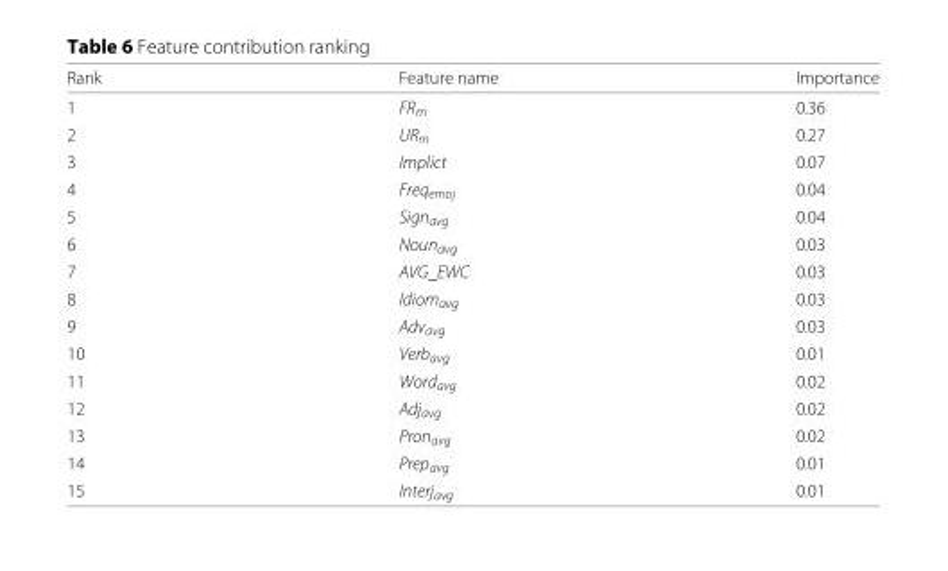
<table><thead><tr><td>Rank</td><td>Feature name</td><td>Importance</td></tr></thead><tbody><tr><td>1</td><td>FR<sub>m</sub></td><td>0.36</td></tr><tr><td>2</td><td>UR<sub>m</sub></td><td>0.27</td></tr><tr><td>3</td><td>Implict</td><td>0.07</td></tr><tr><td>4</td><td>Freq<sub>emoj</sub></td><td>0.04</td></tr><tr><td>5</td><td>Sign<sub>avg</sub></td><td>0.04</td></tr><tr><td>6</td><td>Noun<sub>avg</sub></td><td>0.03</td></tr><tr><td>7</td><td>AVG_EWC</td><td>0.03</td></tr><tr><td>8</td><td>Idiom<sub>avg</sub></td><td>0.03</td></tr><tr><td>9</td><td>Adv<sub>avg</sub></td><td>0.03</td></tr><tr><td>10</td><td>Verb<sub>avg</sub></td><td>0.01</td></tr><tr><td>11</td><td>Word<sub>avg</sub></td><td>0.02</td></tr><tr><td>12</td><td>Adj<sub>avg</sub></td><td>0.02</td></tr><tr><td>13</td><td>Pron<sub>avg</sub></td><td>0.02</td></tr><tr><td>14</td><td>Prep<sub>avg</sub></td><td>0.01</td></tr><tr><td>15</td><td>Interj<sub>avg</sub></td><td>0.01</td></tr></tbody></table>